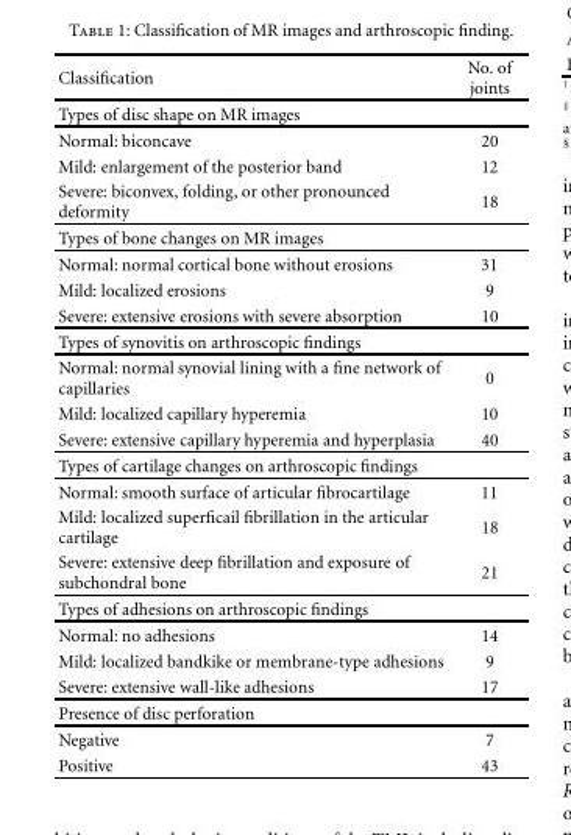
<table><thead><tr><td>Classification</td><td>No. of joints</td></tr></thead><tbody><tr><td colspan="2">Types of disc shape on MR images</td></tr><tr><td>Normal: biconcave</td><td>20</td></tr><tr><td>Mild: enlargement of the posterior band</td><td>12</td></tr><tr><td>Severe: biconvex, folding, or other pronounced deformity</td><td>18</td></tr><tr><td colspan="2">Types of bone changes on MR images</td></tr><tr><td>Normal: normal cortical bone without erosions</td><td>31</td></tr><tr><td>Mild: localized erosions</td><td>9</td></tr><tr><td>Severe: extensive erosions with severe absorption</td><td>10</td></tr><tr><td colspan="2">Types of synovitis on arthroscopic findings</td></tr><tr><td>Normal: normal synovial lining with a fine network of capillaries</td><td>0</td></tr><tr><td>Mild: localized capillary hyperemia</td><td>10</td></tr><tr><td>Severe: extensive capillary hyperemia and hyperplasia</td><td>40</td></tr><tr><td colspan="2">Types of cartilage changes on arthroscopic findings</td></tr><tr><td>Normal: smooth surface of articular fibrocartilage</td><td>11</td></tr><tr><td>Mild: localized superficail fibrillation in the articular cartilage</td><td>18</td></tr><tr><td>Severe: extensive deep fibrillation and exposure of subchondral bone</td><td>21</td></tr><tr><td colspan="2">Types of adhesions on arthroscopic findings</td></tr><tr><td>Normal: no adhesions</td><td>14</td></tr><tr><td>Mild: localized bandkike or membrane-type adhesions</td><td>9</td></tr><tr><td>Severe: extensive wall-like adhesions</td><td>17</td></tr><tr><td colspan="2">Presence of disc perforation</td></tr><tr><td>Negative</td><td>7</td></tr><tr><td>Positive</td><td>43</td></tr></tbody></table>